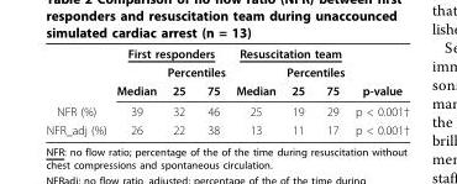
<table><thead><tr><td rowspan="3"></td><td colspan="3">First responders</td><td colspan="3">Resuscitation team</td><td rowspan="3">p-value</td></tr><tr><td rowspan="2">Median</td><td colspan="2">Percentiles</td><td rowspan="2">Median</td><td colspan="2">Percentiles</td></tr><tr><td>25</td><td>75</td><td>25</td><td>75</td></tr></thead><tbody><tr><td>NFR (%)</td><td>39</td><td>32</td><td>46</td><td>25</td><td>19</td><td>29</td><td>p &lt; 0.001†</td></tr><tr><td>NFR_adj (%)</td><td>26</td><td>22</td><td>38</td><td>13</td><td>11</td><td>17</td><td>p &lt; 0.001†</td></tr></tbody></table>